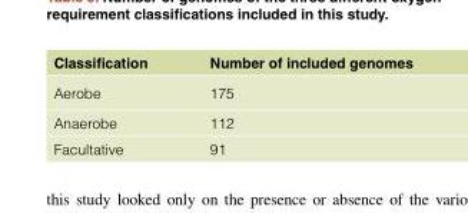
<table><thead><tr><td>Classification</td><td>Number of included genomes</td></tr></thead><tbody><tr><td>Aerobe</td><td>175</td></tr><tr><td>Anaerobe</td><td>112</td></tr><tr><td>Facultative</td><td>91</td></tr></tbody></table>